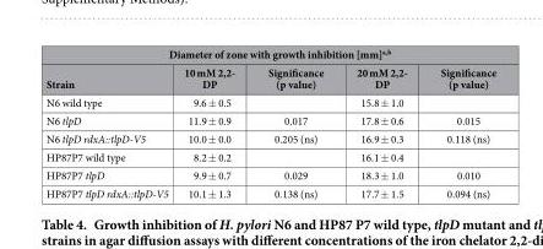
<table><thead><tr><td colspan="5">Diameter of zone with growth inhibition [mm]<sup>a,b</sup></td></tr><tr><td>Strain</td><td>10 mM 2,2- DP</td><td>Significance (p value)</td><td>20 mM 2,2- DP</td><td>Significance (p value)</td></tr></thead><tbody><tr><td>N6 wild type</td><td>9.6 ± 0.5</td><td></td><td>15.8 ± 1.0</td><td></td></tr><tr><td>N6 tlpD</td><td>11.9 ± 0.9</td><td>0.017</td><td>17.8 ± 0.6</td><td>0.015</td></tr><tr><td>N6 tlpD rdxA::tlpD-V5</td><td>10.0 ± 0.0</td><td>0.205 (ns)</td><td>16.9 ± 0.3</td><td>0.118 (ns)</td></tr><tr><td>HP87P7 wild type</td><td>8.2 ± 0.2</td><td></td><td>16.1 ± 0.4</td><td></td></tr><tr><td>HP87P7 tlpD</td><td>9.9 ± 0.7</td><td>0.029</td><td>18.3 ± 1.0</td><td>0.010</td></tr><tr><td>HP87P7 tlpD rdxA::tlpD-V5</td><td>10.1 ± 1.3</td><td>0.138 (ns)</td><td>17.7 ± 1.5</td><td>0.094 (ns)</td></tr></tbody></table>